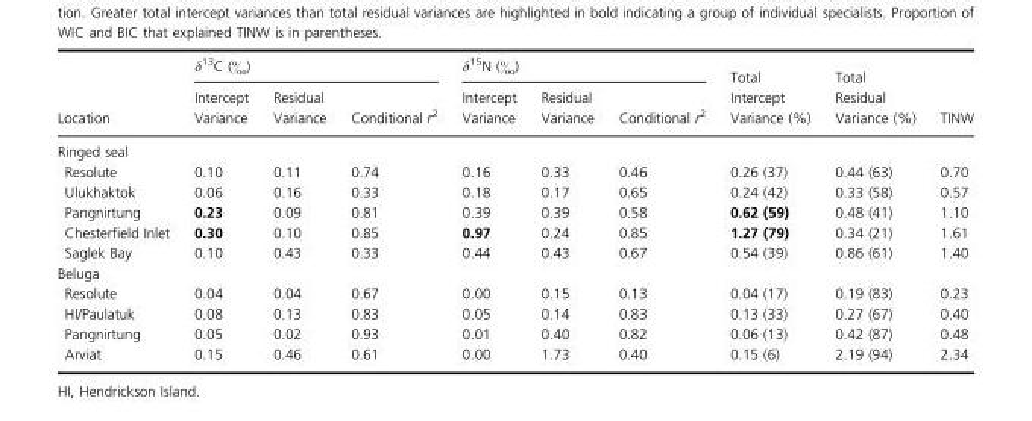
<table><thead><tr><td rowspan="2">Location</td><td colspan="3">δ<sup>13</sup>C (‰)</td><td colspan="3">δ<sup>15</sup>N (‰)</td><td rowspan="2">Total Intercept Variance (%)</td><td rowspan="2">Total Residual Variance (%)</td><td rowspan="2">TINW</td></tr><tr><td>Intercept Variance</td><td>Residual Variance</td><td>Conditional r<sup>2</sup></td><td>Intercept Variance</td><td>Residual Variance</td><td>Conditional r<sup>2</sup></td></tr></thead><tbody><tr><td colspan="10">Ringed seal</td></tr><tr><td>Resolute</td><td>0.10</td><td>0.11</td><td>0.74</td><td>0.16</td><td>0.33</td><td>0.46</td><td>0.26 (37)</td><td>0.44 (63)</td><td>0.70</td></tr><tr><td>Ulukhaktok</td><td>0.06</td><td>0.16</td><td>0.33</td><td>0.18</td><td>0.17</td><td>0.65</td><td>0.24 (42)</td><td>0.33 (58)</td><td>0.57</td></tr><tr><td>Pangnirtung</td><td>0.23</td><td>0.09</td><td>0.81</td><td>0.39</td><td>0.39</td><td>0.58</td><td>0.62 (59)</td><td>0.48 (41)</td><td>1.10</td></tr><tr><td>Chesterfield Inlet</td><td>0.30</td><td>0.10</td><td>0.85</td><td>0.97</td><td>0.24</td><td>0.85</td><td>1.27 (79)</td><td>0.34 (21)</td><td>1.61</td></tr><tr><td>Saglek Bay</td><td>0.10</td><td>0.43</td><td>0.33</td><td>0.44</td><td>0.43</td><td>0.67</td><td>0.54 (39)</td><td>0.86 (61)</td><td>1.40</td></tr><tr><td colspan="10">Beluga</td></tr><tr><td>Resolute</td><td>0.04</td><td>0.04</td><td>0.67</td><td>0.00</td><td>0.15</td><td>0.13</td><td>0.04 (17)</td><td>0.19 (83)</td><td>0.23</td></tr><tr><td>HI/Paulatuk</td><td>0.08</td><td>0.13</td><td>0.83</td><td>0.05</td><td>0.14</td><td>0.83</td><td>0.13 (33)</td><td>0.27 (67)</td><td>0.40</td></tr><tr><td>Pangnirtung</td><td>0.05</td><td>0.02</td><td>0.93</td><td>0.01</td><td>0.40</td><td>0.82</td><td>0.06 (13)</td><td>0.42 (87)</td><td>0.48</td></tr><tr><td>Arviat</td><td>0.15</td><td>0.46</td><td>0.61</td><td>0.00</td><td>1.73</td><td>0.40</td><td>0.15 (6)</td><td>2.19 (94)</td><td>2.34</td></tr></tbody></table>